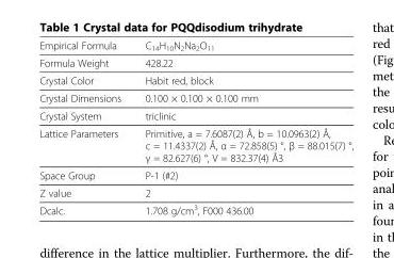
<table><thead><tr><td>Empirical Formula</td><td>C<sub>14</sub>H<sub>10</sub>N<sub>2</sub>Na<sub>2</sub>O<sub>11</sub></td></tr></thead><tbody><tr><td>Formula Weight</td><td>428.22</td></tr><tr><td>Crystal Color</td><td>Habit red, block</td></tr><tr><td>Crystal Dimensions</td><td>0.100 × 0.100 × 0.100 mm</td></tr><tr><td>Crystal System</td><td>triclinic</td></tr><tr><td>Lattice Parameters</td><td>Primitive, a = 7.6087(2) Å, b = 10.0963(2) Å, c = 11.4337(2) Å, α = 72.858(5) °, β = 88.015(7) °, γ = 82.627(6) °, V = 832.37(4) Å3</td></tr><tr><td>Space Group</td><td>P-1 (#2)</td></tr><tr><td>Z value</td><td>2</td></tr><tr><td>Dcalc.</td><td>1.708 g/cm<sup>3</sup>, F000 436.00</td></tr></tbody></table>